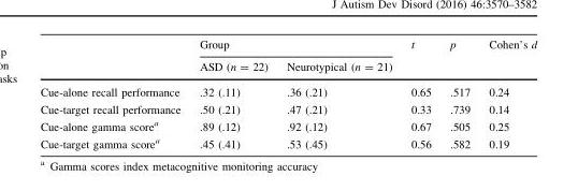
<table><thead><tr><td rowspan="2"></td><td colspan="2">Group</td><td rowspan="2">t</td><td rowspan="2">p</td><td rowspan="2">Cohen’s d</td></tr><tr><td>ASD (n = 22)</td><td>Neurotypical (n = 21)</td></tr></thead><tbody><tr><td>Cue-alone recall performance</td><td>.32 (.11)</td><td>.36 (.21)</td><td>0.65</td><td>.517</td><td>0.24</td></tr><tr><td>Cue-target recall performance</td><td>.50 (.21)</td><td>.47 (.21)</td><td>0.33</td><td>.739</td><td>0.14</td></tr><tr><td>Cue-alone gamma score<sup>a</sup></td><td>.89 (.12)</td><td>.92 (.12)</td><td>0.67</td><td>.505</td><td>0.25</td></tr><tr><td>Cue-target gamma score<sup>a</sup></td><td>.45 (.41)</td><td>.53 (.45)</td><td>0.56</td><td>.582</td><td>0.19</td></tr></tbody></table>